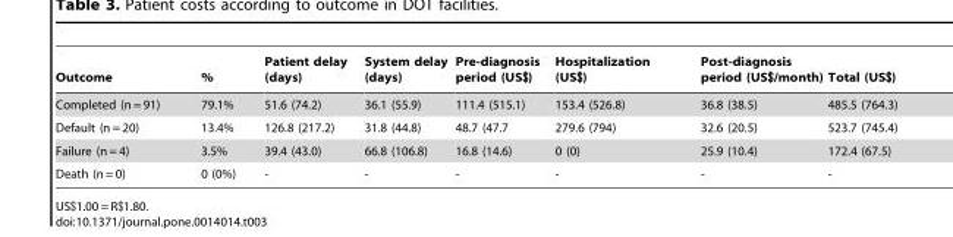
<table><thead><tr><td>Outcome</td><td>%</td><td>Patient delay (days)</td><td>System delay (days)</td><td>Pre-diagnosis period (US$)</td><td>Hospitalization (US$)</td><td>Post-diagnosis period (US$/month)</td><td>Total (US$)</td></tr></thead><tbody><tr><td>Completed (n = 91)</td><td>79.1%</td><td>51.6 (74.2)</td><td>36.1 (55.9)</td><td>111.4 (515.1)</td><td>153.4 (526.8)</td><td>36.8 (38.5)</td><td>485.5 (764.3)</td></tr><tr><td>Default (n = 20)</td><td>13.4%</td><td>126.8 (217.2)</td><td>31.8 (44.8)</td><td>48.7 (47.7</td><td>279.6 (794)</td><td>32.6 (20.5)</td><td>523.7 (745.4)</td></tr><tr><td>Failure (n = 4)</td><td>3.5%</td><td>39.4 (43.0)</td><td>66.8 (106.8)</td><td>16.8 (14.6)</td><td>0 (0)</td><td>25.9 (10.4)</td><td>172.4 (67.5)</td></tr><tr><td>Death (n = 0)</td><td>0 (0%)</td><td>-</td><td>-</td><td>-</td><td>-</td><td>-</td><td>-</td></tr></tbody></table>